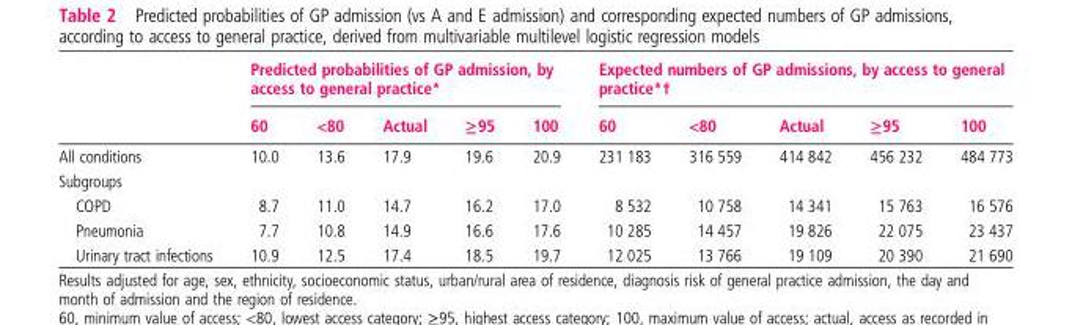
<table><thead><tr><td rowspan="2"></td><td colspan="5">Predicted probabilities of GP admission, by access to general practice*</td><td colspan="5">Expected numbers of GP admissions, by access to general practice*†</td></tr><tr><td>60</td><td>&lt;80</td><td>Actual</td><td>≥95</td><td>100</td><td>60</td><td>&lt;80</td><td>Actual</td><td>≥95</td><td>100</td></tr></thead><tbody><tr><td>All conditions</td><td>10.0</td><td>13.6</td><td>17.9</td><td>19.6</td><td>20.9</td><td>231 183</td><td>316 559</td><td>414 842</td><td>456 232</td><td>484 773</td></tr><tr><td colspan="11">Subgroups</td></tr><tr><td>COPD</td><td>8.7</td><td>11.0</td><td>14.7</td><td>16.2</td><td>17.0</td><td>8 532</td><td>10 758</td><td>14 341</td><td>15 763</td><td>16 576</td></tr><tr><td>Pneumonia</td><td>7.7</td><td>10.8</td><td>14.9</td><td>16.6</td><td>17.6</td><td>10 285</td><td>14 457</td><td>19 826</td><td>22 075</td><td>23 437</td></tr><tr><td>Urinary tract infections</td><td>10.9</td><td>12.5</td><td>17.4</td><td>18.5</td><td>19.7</td><td>12 025</td><td>13 766</td><td>19 109</td><td>20 390</td><td>21 690</td></tr></tbody></table>